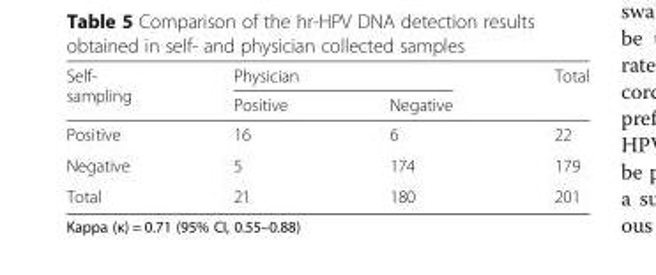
<table><thead><tr><td rowspan="2">Self- sampling</td><td colspan="2">Physician</td><td rowspan="2">Total</td></tr><tr><td>Positive</td><td>Negative</td></tr></thead><tbody><tr><td>Positive</td><td>16</td><td>6</td><td>22</td></tr><tr><td>Negative</td><td>5</td><td>174</td><td>179</td></tr><tr><td>Total</td><td>21</td><td>180</td><td>201</td></tr></tbody></table>